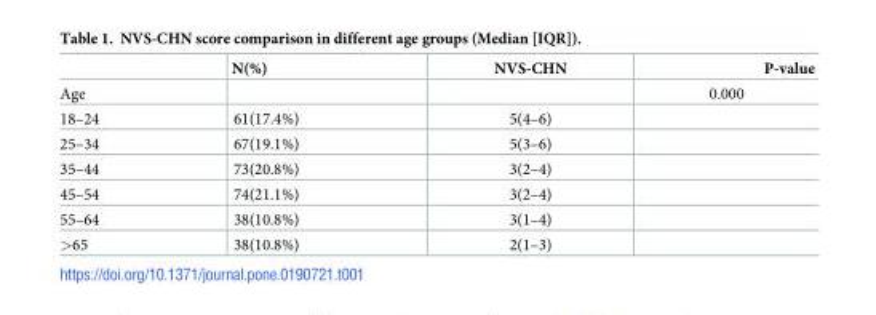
<table><thead><tr><td></td><td>N(%)</td><td>NVS-CHN</td><td>P-value</td></tr></thead><tbody><tr><td>Age</td><td></td><td></td><td>0.000</td></tr><tr><td>18–24</td><td>61(17.4%)</td><td>5(4–6)</td><td></td></tr><tr><td>25–34</td><td>67(19.1%)</td><td>5(3–6)</td><td></td></tr><tr><td>35–44</td><td>73(20.8%)</td><td>3(2–4)</td><td></td></tr><tr><td>45–54</td><td>74(21.1%)</td><td>3(2–4)</td><td></td></tr><tr><td>55–64</td><td>38(10.8%)</td><td>3(1–4)</td><td></td></tr><tr><td>&gt;65</td><td>38(10.8%)</td><td>2(1–3)</td><td></td></tr></tbody></table>